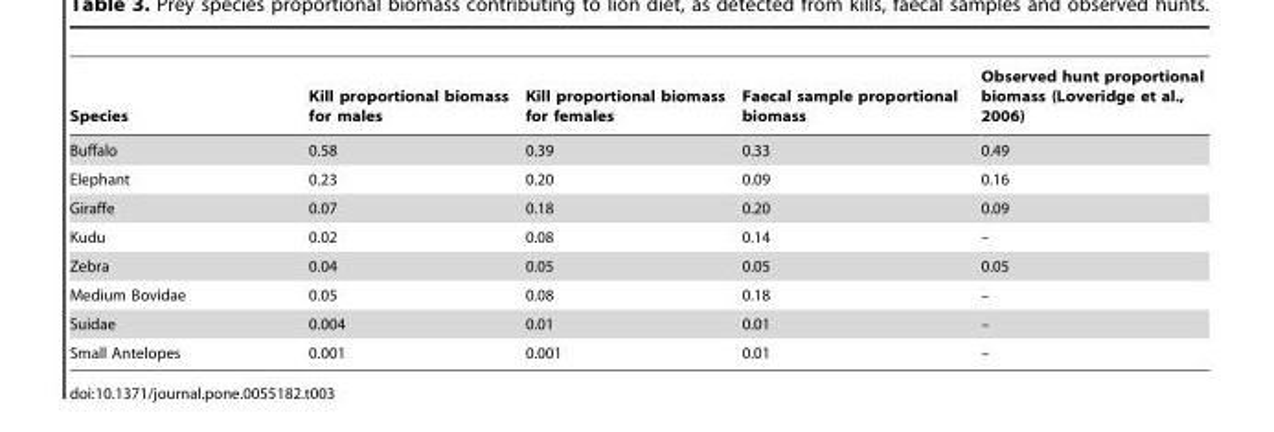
<table><thead><tr><td>Species</td><td>Kill proportional biomass for males</td><td>Kill proportional biomass for females</td><td>Faecal sample proportional biomass</td><td>Observed hunt proportional biomass (Loveridge et al., 2006)</td></tr></thead><tbody><tr><td>Buffalo</td><td>0.58</td><td>0.39</td><td>0.33</td><td>0.49</td></tr><tr><td>Elephant</td><td>0.23</td><td>0.20</td><td>0.09</td><td>0.16</td></tr><tr><td>Giraffe</td><td>0.07</td><td>0.18</td><td>0.20</td><td>0.09</td></tr><tr><td>Kudu</td><td>0.02</td><td>0.08</td><td>0.14</td><td>–</td></tr><tr><td>Zebra</td><td>0.04</td><td>0.05</td><td>0.05</td><td>0.05</td></tr><tr><td>Medium Bovidae</td><td>0.05</td><td>0.08</td><td>0.18</td><td>–</td></tr><tr><td>Suidae</td><td>0.004</td><td>0.01</td><td>0.01</td><td>–</td></tr><tr><td>Small Antelopes</td><td>0.001</td><td>0.001</td><td>0.01</td><td>–</td></tr></tbody></table>